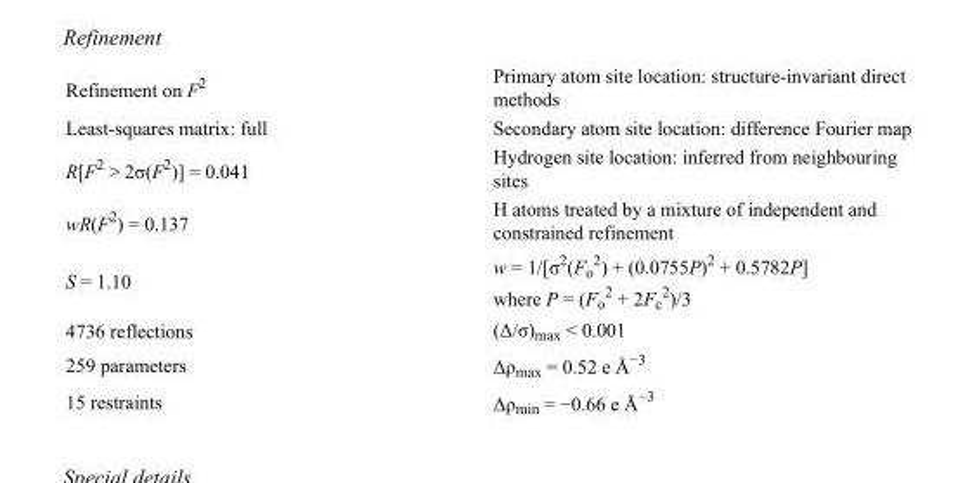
<table><tbody><tr><td>Refinement on F<sup>2</sup></td><td>Primary atom site location: structure-invariant direct methods</td></tr><tr><td>Least-squares matrix: full</td><td>Secondary atom site location: difference Fourier map</td></tr><tr><td>R[F<sup>2</sup> &gt; 2σ(F<sup>2</sup>)] = 0.041</td><td>Hydrogen site location: inferred from neighbouring sites</td></tr><tr><td>wR(F<sup>2</sup>) = 0.137</td><td>H atoms treated by a mixture of independent and constrained refinement</td></tr><tr><td>S = 1.10</td><td>w = 1/[σ<sup>2</sup>(F<sub>o</sub> <sup>2</sup>) + (0.0755P)<sup>2</sup> + 0.5782P] where P = (F<sub>o</sub> <sup>2</sup> + 2F<sub>c</sub> <sup>2</sup>)/3</td></tr><tr><td>4736 reflections</td><td>(Δ/σ)<sub>max</sub> &lt; 0.001</td></tr><tr><td>259 parameters</td><td>Δρ<sub>max</sub> = 0.52 e Å<sup>−3</sup></td></tr><tr><td>15 restraints</td><td>Δρ<sub>min</sub> = −0.66 e Å<sup>−3</sup></td></tr></tbody></table>